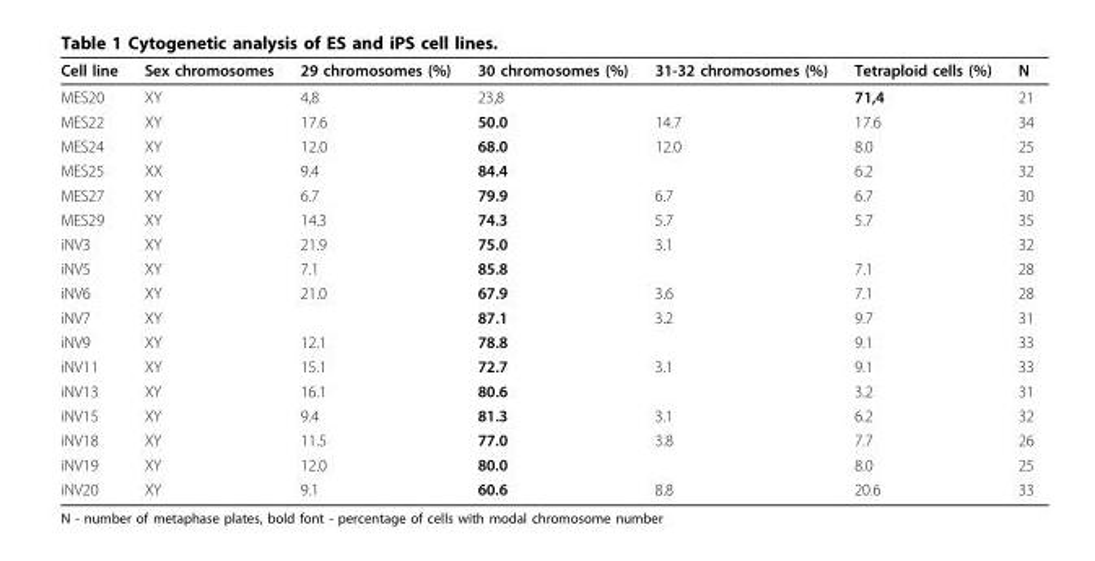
<table><thead><tr><td>Cell line</td><td>Sex chromosomes</td><td>29 chromosomes (%)</td><td>30 chromosomes (%)</td><td>31-32 chromosomes (%)</td><td>Tetraploid cells (%)</td><td>N</td></tr></thead><tbody><tr><td>MES20</td><td>XY</td><td>4,8</td><td>23,8</td><td></td><td>71,4</td><td>21</td></tr><tr><td>MES22</td><td>XY</td><td>17.6</td><td>50.0</td><td>14.7</td><td>17.6</td><td>34</td></tr><tr><td>MES24</td><td>XY</td><td>12.0</td><td>68.0</td><td>12.0</td><td>8.0</td><td>25</td></tr><tr><td>MES25</td><td>XX</td><td>9.4</td><td>84.4</td><td></td><td>6.2</td><td>32</td></tr><tr><td>MES27</td><td>XY</td><td>6.7</td><td>79.9</td><td>6.7</td><td>6.7</td><td>30</td></tr><tr><td>MES29</td><td>XY</td><td>14.3</td><td>74.3</td><td>5.7</td><td>5.7</td><td>35</td></tr><tr><td>iNV3</td><td>XY</td><td>21.9</td><td>75.0</td><td>3.1</td><td></td><td>32</td></tr><tr><td>iNV5</td><td>XY</td><td>7.1</td><td>85.8</td><td></td><td>7.1</td><td>28</td></tr><tr><td>iNV6</td><td>XY</td><td>21.0</td><td>67.9</td><td>3.6</td><td>7.1</td><td>28</td></tr><tr><td>iNV7</td><td>XY</td><td></td><td>87.1</td><td>3.2</td><td>9.7</td><td>31</td></tr><tr><td>iNV9</td><td>XY</td><td>12.1</td><td>78.8</td><td></td><td>9.1</td><td>33</td></tr><tr><td>iNV11</td><td>XY</td><td>15.1</td><td>72.7</td><td>3.1</td><td>9.1</td><td>33</td></tr><tr><td>iNV13</td><td>XY</td><td>16.1</td><td>80.6</td><td></td><td>3.2</td><td>31</td></tr><tr><td>iNV15</td><td>XY</td><td>9.4</td><td>81.3</td><td>3.1</td><td>6.2</td><td>32</td></tr><tr><td>iNV18</td><td>XY</td><td>11.5</td><td>77.0</td><td>3.8</td><td>7.7</td><td>26</td></tr><tr><td>iNV19</td><td>XY</td><td>12.0</td><td>80.0</td><td></td><td>8.0</td><td>25</td></tr><tr><td>iNV20</td><td>XY</td><td>9.1</td><td>60.6</td><td>8.8</td><td>20.6</td><td>33</td></tr></tbody></table>